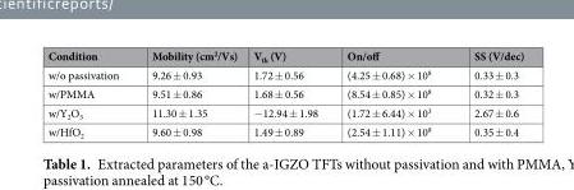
<table><thead><tr><td>Condition</td><td>Mobility (cm<sup>2</sup>/Vs)</td><td>V<sub>th</sub> (V)</td><td>On/off</td><td>SS (V/dec)</td></tr></thead><tbody><tr><td>w/o passivation</td><td>9.26 ± 0.93</td><td>1.72 ± 0.56</td><td>(4.25 ± 0.68) × 10<sup>8</sup></td><td>0.33 ± 0.3</td></tr><tr><td>w/PMMA</td><td>9.51 ± 0.86</td><td>1.68 ± 0.56</td><td>(8.54 ± 0.85) × 10<sup>8</sup></td><td>0.32 ± 0.3</td></tr><tr><td>w/Y<sub>2</sub>O<sub>3</sub></td><td>11.30 ± 1.35</td><td>−12.94 ± 1.98</td><td>(1.72 ± 6.44) × 10<sup>3</sup></td><td>2.67 ± 0.6</td></tr><tr><td>w/HfO<sub>2</sub></td><td>9.60 ± 0.98</td><td>1.49 ± 0.89</td><td>(2.54 ± 1.11) × 10<sup>8</sup></td><td>0.35 ± 0.4</td></tr></tbody></table>